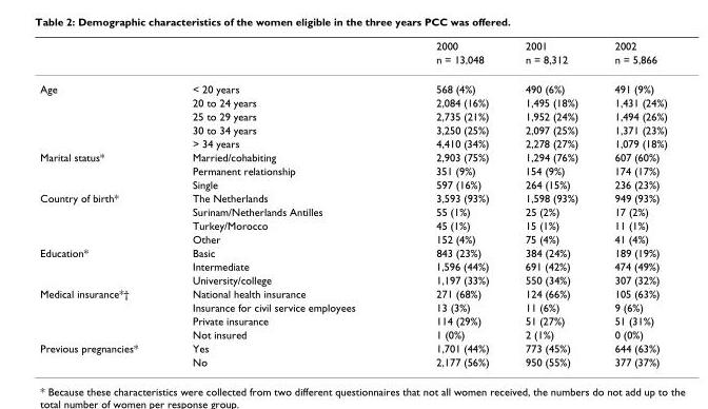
<table><thead><tr><td rowspan="2"></td><td rowspan="2"></td><td rowspan="2">2000 n = 13,048</td><td rowspan="2">2001 n = 8,312</td><td rowspan="2">2002 n = 5,866</td></tr><tr></tr></thead><tbody><tr><td rowspan="5">Age</td><td>&lt; 20 years</td><td>568 (4%)</td><td>490 (6%)</td><td>491 (9%)</td></tr><tr><td>20 to 24 years</td><td>2,084 (16%)</td><td>1,495 (18%)</td><td>1,431 (24%)</td></tr><tr><td>25 to 29 years</td><td>2,735 (21%)</td><td>1,952 (24%)</td><td>1,494 (26%)</td></tr><tr><td>30 to 34 years</td><td>3,250 (25%)</td><td>2,097 (25%)</td><td>1,371 (23%)</td></tr><tr><td>&gt; 34 years</td><td>4,410 (34%)</td><td>2,278 (27%)</td><td>1,079 (18%)</td></tr><tr><td rowspan="3">Marital status*</td><td>Married/cohabiting</td><td>2,903 (75%)</td><td>1,294 (76%)</td><td>607 (60%)</td></tr><tr><td>Permanent relationship</td><td>351 (9%)</td><td>154 (9%)</td><td>174 (17%)</td></tr><tr><td>Single</td><td>597 (16%)</td><td>264 (15%)</td><td>236 (23%)</td></tr><tr><td rowspan="4">Country of birth*</td><td>The Netherlands</td><td>3,593 (93%)</td><td>1,598 (93%)</td><td>949 (93%)</td></tr><tr><td>Surinam/Netherlands Antilles</td><td>55 (1%)</td><td>25 (2%)</td><td>17 (2%)</td></tr><tr><td>Turkey/Morocco</td><td>45 (1%)</td><td>15 (1%)</td><td>11 (1%)</td></tr><tr><td>Other</td><td>152 (4%)</td><td>75 (4%)</td><td>41 (4%)</td></tr><tr><td rowspan="3">Education*</td><td>Basic</td><td>843 (23%)</td><td>384 (24%)</td><td>189 (19%)</td></tr><tr><td>Intermediate</td><td>1,596 (44%)</td><td>691 (42%)</td><td>474 (49%)</td></tr><tr><td>University/college</td><td>1,197 (33%)</td><td>550 (34%)</td><td>307 (32%)</td></tr><tr><td rowspan="4">Medical insurance*†</td><td>National health insurance</td><td>271 (68%)</td><td>124 (66%)</td><td>105 (63%)</td></tr><tr><td>Insurance for civil service employees</td><td>13 (3%)</td><td>11 (6%)</td><td>9 (6%)</td></tr><tr><td>Private insurance</td><td>114 (29%)</td><td>51 (27%)</td><td>51 (31%)</td></tr><tr><td>Not insured</td><td>1 (0%)</td><td>2 (1%)</td><td>0 (0%)</td></tr><tr><td rowspan="2">Previous pregnancies*</td><td>Yes</td><td>1,701 (44%)</td><td>773 (45%)</td><td>644 (63%)</td></tr><tr><td>No</td><td>2,177 (56%)</td><td>950 (55%)</td><td>377 (37%)</td></tr></tbody></table>